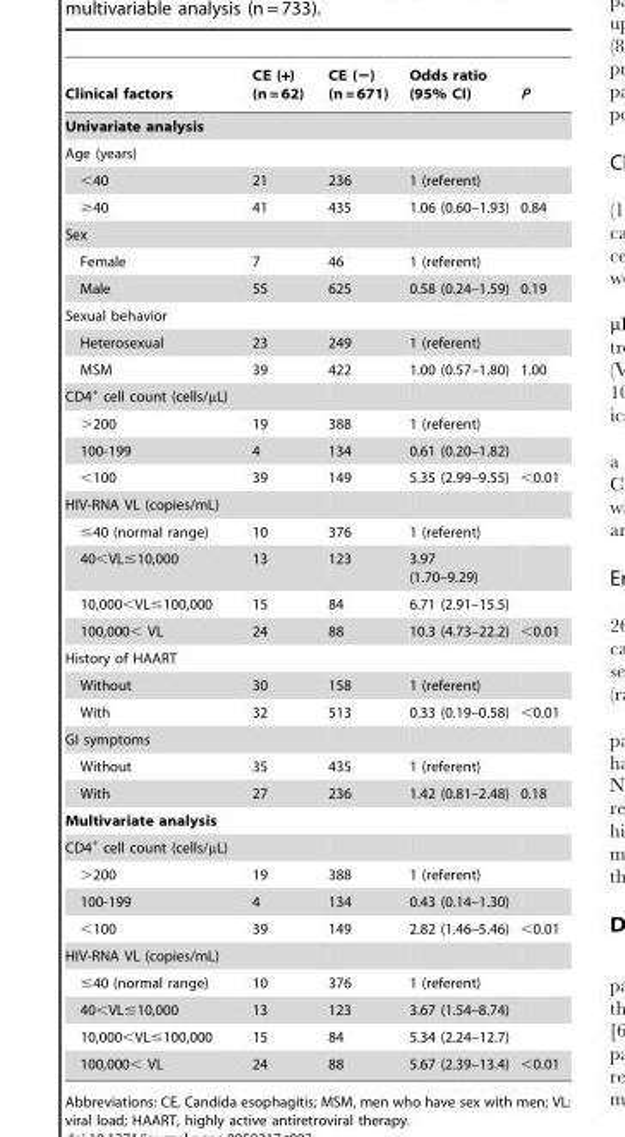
<table><thead><tr><td>Clinical factors</td><td>CE (+) (n = 62)</td><td>CE (−) (n = 671)</td><td>Odds ratio (95% CI)</td><td>P</td></tr></thead><tbody><tr><td colspan="5">Univariate analysis</td></tr><tr><td colspan="5">Age (years)</td></tr><tr><td>&lt;40</td><td>21</td><td>236</td><td>1 (referent)</td><td></td></tr><tr><td>≥40</td><td>41</td><td>435</td><td>1.06 (0.60–1.93)</td><td>0.84</td></tr><tr><td colspan="5">Sex</td></tr><tr><td>Female</td><td>7</td><td>46</td><td>1 (referent)</td><td></td></tr><tr><td>Male</td><td>55</td><td>625</td><td>0.58 (0.24–1.59)</td><td>0.19</td></tr><tr><td colspan="5">Sexual behavior</td></tr><tr><td>Heterosexual</td><td>23</td><td>249</td><td>1 (referent)</td><td></td></tr><tr><td>MSM</td><td>39</td><td>422</td><td>1.00 (0.57–1.80)</td><td>1.00</td></tr><tr><td colspan="5">CD4<sup>+</sup> cell count (cells/μL)</td></tr><tr><td>&gt;200</td><td>19</td><td>388</td><td>1 (referent)</td><td></td></tr><tr><td>100-199</td><td>4</td><td>134</td><td>0.61 (0.20–1.82)</td><td></td></tr><tr><td>&lt;100</td><td>39</td><td>149</td><td>5.35 (2.99–9.55)</td><td>&lt;0.01</td></tr><tr><td colspan="5">HIV-RNA VL (copies/mL)</td></tr><tr><td>≤40 (normal range)</td><td>10</td><td>376</td><td>1 (referent)</td><td></td></tr><tr><td>40&lt;VL≤10,000</td><td>13</td><td>123</td><td>3.97 (1.70–9.29)</td><td></td></tr><tr><td>10,000&lt;VL≤100,000</td><td>15</td><td>84</td><td>6.71 (2.91–15.5)</td><td></td></tr><tr><td>100,000&lt; VL</td><td>24</td><td>88</td><td>10.3 (4.73–22.2)</td><td>&lt;0.01</td></tr><tr><td colspan="5">History of HAART</td></tr><tr><td>Without</td><td>30</td><td>158</td><td>1 (referent)</td><td></td></tr><tr><td>With</td><td>32</td><td>513</td><td>0.33 (0.19–0.58)</td><td>&lt;0.01</td></tr><tr><td colspan="5">GI symptoms</td></tr><tr><td>Without</td><td>35</td><td>435</td><td>1 (referent)</td><td></td></tr><tr><td>With</td><td>27</td><td>236</td><td>1.42 (0.81–2.48)</td><td>0.18</td></tr><tr><td colspan="5">Multivariate analysis</td></tr><tr><td colspan="5">CD4<sup>+</sup> cell count (cells/μL)</td></tr><tr><td>&gt;200</td><td>19</td><td>388</td><td>1 (referent)</td><td></td></tr><tr><td>100-199</td><td>4</td><td>134</td><td>0.43 (0.14–1.30)</td><td></td></tr><tr><td>&lt;100</td><td>39</td><td>149</td><td>2.82 (1.46–5.46)</td><td>&lt;0.01</td></tr><tr><td colspan="5">HIV-RNA VL (copies/mL)</td></tr><tr><td>≤40 (normal range)</td><td>10</td><td>376</td><td>1 (referent)</td><td></td></tr><tr><td>40&lt;VL≤10,000</td><td>13</td><td>123</td><td>3.67 (1.54–8.74)</td><td></td></tr><tr><td>10,000&lt;VL≤100,000</td><td>15</td><td>84</td><td>5.34 (2.24–12.7)</td><td></td></tr><tr><td>100,000&lt; VL</td><td>24</td><td>88</td><td>5.67 (2.39–13.4)</td><td>&lt;0.01</td></tr></tbody></table>